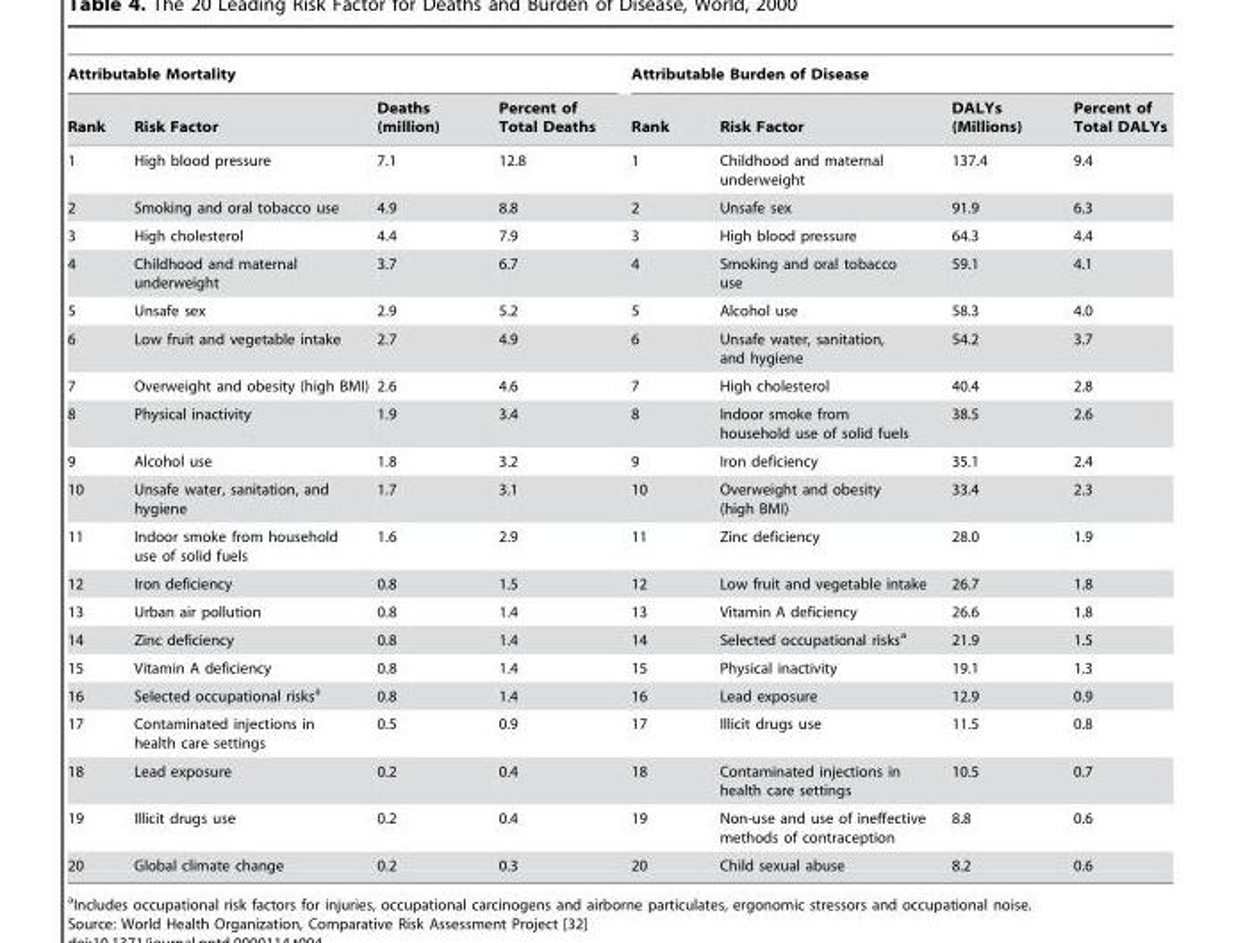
<table><thead><tr><td colspan="4">Attributable Mortality</td><td colspan="4">Attributable Burden of Disease</td></tr><tr><td>Rank</td><td>Risk Factor</td><td>Deaths (million)</td><td>Percent of Total Deaths</td><td>Rank</td><td>Risk Factor</td><td>DALYs (Millions)</td><td>Percent of Total DALYs</td></tr></thead><tbody><tr><td>1</td><td>High blood pressure</td><td>7.1</td><td>12.8</td><td>1</td><td>Childhood and maternal underweight</td><td>137.4</td><td>9.4</td></tr><tr><td>2</td><td>Smoking and oral tobacco use</td><td>4.9</td><td>8.8</td><td>2</td><td>Unsafe sex</td><td>91.9</td><td>6.3</td></tr><tr><td>3</td><td>High cholesterol</td><td>4.4</td><td>7.9</td><td>3</td><td>High blood pressure</td><td>64.3</td><td>4.4</td></tr><tr><td>4</td><td>Childhood and maternal underweight</td><td>3.7</td><td>6.7</td><td>4</td><td>Smoking and oral tobacco use</td><td>59.1</td><td>4.1</td></tr><tr><td>5</td><td>Unsafe sex</td><td>2.9</td><td>5.2</td><td>5</td><td>Alcohol use</td><td>58.3</td><td>4.0</td></tr><tr><td>6</td><td>Low fruit and vegetable intake</td><td>2.7</td><td>4.9</td><td>6</td><td>Unsafe water, sanitation, and hygiene</td><td>54.2</td><td>3.7</td></tr><tr><td>7</td><td>Overweight and obesity (high BMI)</td><td>2.6</td><td>4.6</td><td>7</td><td>High cholesterol</td><td>40.4</td><td>2.8</td></tr><tr><td>8</td><td>Physical inactivity</td><td>1.9</td><td>3.4</td><td>8</td><td>Indoor smoke from household use of solid fuels</td><td>38.5</td><td>2.6</td></tr><tr><td>9</td><td>Alcohol use</td><td>1.8</td><td>3.2</td><td>9</td><td>Iron deficiency</td><td>35.1</td><td>2.4</td></tr><tr><td>10</td><td>Unsafe water, sanitation, and hygiene</td><td>1.7</td><td>3.1</td><td>10</td><td>Overweight and obesity (high BMI)</td><td>33.4</td><td>2.3</td></tr><tr><td>11</td><td>Indoor smoke from household use of solid fuels</td><td>1.6</td><td>2.9</td><td>11</td><td>Zinc deficiency</td><td>28.0</td><td>1.9</td></tr><tr><td>12</td><td>Iron deficiency</td><td>0.8</td><td>1.5</td><td>12</td><td>Low fruit and vegetable intake</td><td>26.7</td><td>1.8</td></tr><tr><td>13</td><td>Urban air pollution</td><td>0.8</td><td>1.4</td><td>13</td><td>Vitamin A deficiency</td><td>26.6</td><td>1.8</td></tr><tr><td>14</td><td>Zinc deficiency</td><td>0.8</td><td>1.4</td><td>14</td><td>Selected occupational risks<sup>a</sup></td><td>21.9</td><td>1.5</td></tr><tr><td>15</td><td>Vitamin A deficiency</td><td>0.8</td><td>1.4</td><td>15</td><td>Physical inactivity</td><td>19.1</td><td>1.3</td></tr><tr><td>16</td><td>Selected occupational risks<sup>a</sup></td><td>0.8</td><td>1.4</td><td>16</td><td>Lead exposure</td><td>12.9</td><td>0.9</td></tr><tr><td>17</td><td>Contaminated injections in health care settings</td><td>0.5</td><td>0.9</td><td>17</td><td>Illicit drugs use</td><td>11.5</td><td>0.8</td></tr><tr><td>18</td><td>Lead exposure</td><td>0.2</td><td>0.4</td><td>18</td><td>Contaminated injections in health care settings</td><td>10.5</td><td>0.7</td></tr><tr><td>19</td><td>Illicit drugs use</td><td>0.2</td><td>0.4</td><td>19</td><td>Non-use and use of ineffective methods of contraception</td><td>8.8</td><td>0.6</td></tr><tr><td>20</td><td>Global climate change</td><td>0.2</td><td>0.3</td><td>20</td><td>Child sexual abuse</td><td>8.2</td><td>0.6</td></tr></tbody></table>